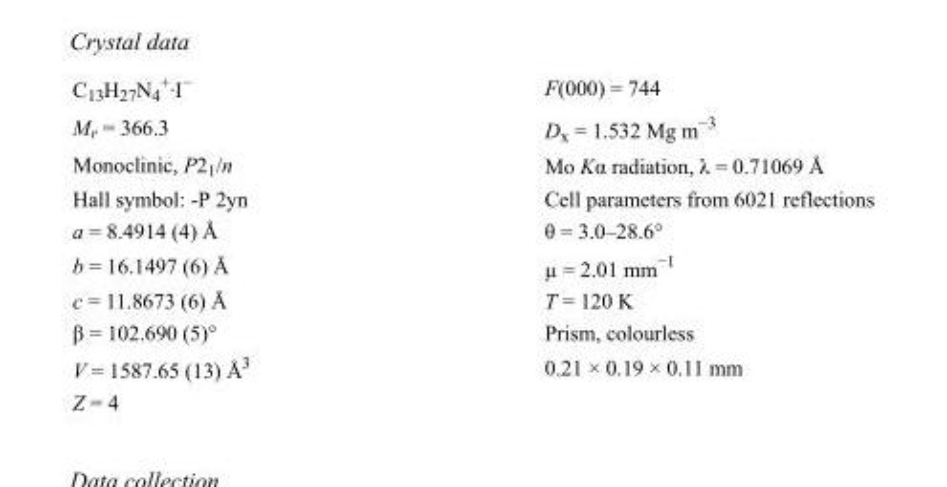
<table><tbody><tr><td>C<sub>13</sub>H<sub>27</sub>N<sub>4</sub> <sup>+</sup>·I<sup>−</sup></td><td>F(000) = 744</td></tr><tr><td>M<sub>r</sub> = 366.3</td><td>D<sub>x</sub> = 1.532 Mg m<sup>−3</sup></td></tr><tr><td>Monoclinic, P2<sub>1</sub>/n</td><td>Mo Kα radiation, λ = 0.71069 Å</td></tr><tr><td>Hall symbol: -P 2yn</td><td>Cell parameters from 6021 reflections</td></tr><tr><td>a = 8.4914 (4) Å</td><td>θ = 3.0–28.6°</td></tr><tr><td>b = 16.1497 (6) Å</td><td>µ = 2.01 mm<sup>−1</sup></td></tr><tr><td>c = 11.8673 (6) Å</td><td>T = 120 K</td></tr><tr><td>β = 102.690 (5)°</td><td>Prism, colourless</td></tr><tr><td>V = 1587.65 (13) Å<sup>3</sup></td><td>0.21 × 0.19 × 0.11 mm</td></tr><tr><td>Z = 4</td><td></td></tr></tbody></table>